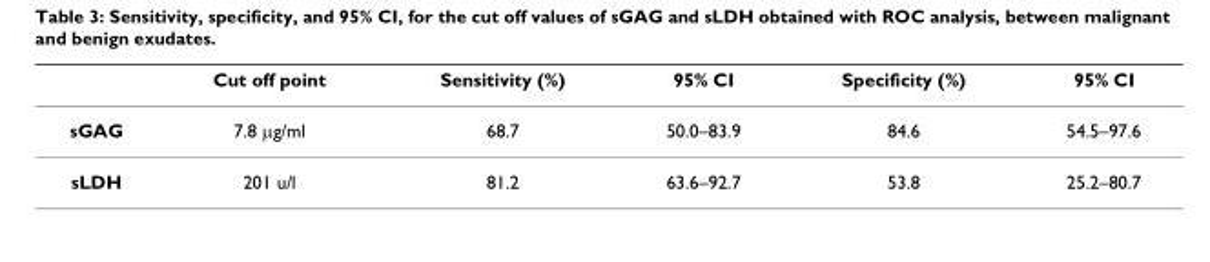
<table><thead><tr><td></td><td>Cut off point</td><td>Sensitivity (%)</td><td>95% CI</td><td>Specificity (%)</td><td>95% CI</td></tr></thead><tbody><tr><td>sGAG</td><td>7.8 μg/ml</td><td>68.7</td><td>50.0–83.9</td><td>84.6</td><td>54.5–97.6</td></tr><tr><td>sLDH</td><td>201 u/l</td><td>81.2</td><td>63.6–92.7</td><td>53.8</td><td>25.2–80.7</td></tr></tbody></table>